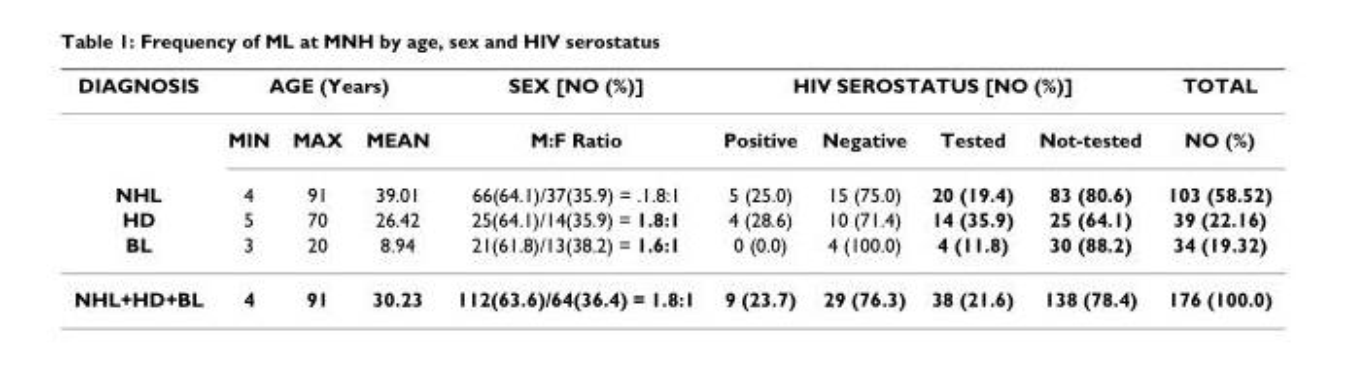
<table><thead><tr><td rowspan="2">DIAGNOSIS</td><td colspan="3">AGE (Years)</td><td rowspan="2">SEX [NO (%)] M:F Ratio</td><td colspan="4">HIV SEROSTATUS [NO (%)]</td><td rowspan="2">TOTAL NO (%)</td></tr><tr><td>MIN</td><td>MAX</td><td>MEAN</td><td>Positive</td><td>Negative</td><td>Tested</td><td>Not-tested</td></tr></thead><tbody><tr><td>NHL</td><td>4</td><td>91</td><td>39.01</td><td>66(64.1)/37(35.9) = .1.8:1</td><td>5 (25.0)</td><td>15 (75.0)</td><td>20 (19.4)</td><td>83 (80.6)</td><td>103 (58.52)</td></tr><tr><td>HD</td><td>5</td><td>70</td><td>26.42</td><td>25(64.1)/14(35.9) = 1.8:1</td><td>4 (28.6)</td><td>10 (71.4)</td><td>14 (35.9)</td><td>25 (64.1)</td><td>39 (22.16)</td></tr><tr><td>BL</td><td>3</td><td>20</td><td>8.94</td><td>21(61.8)/13(38.2) = 1.6:1</td><td>0 (0.0)</td><td>4 (100.0)</td><td>4 (11.8)</td><td>30 (88.2)</td><td>34 (19.32)</td></tr><tr><td>NHL+HD+BL</td><td>4</td><td>91</td><td>30.23</td><td>112(63.6)/64(36.4) = 1.8:1</td><td>9 (23.7)</td><td>29 (76.3)</td><td>38 (21.6)</td><td>138 (78.4)</td><td>176 (100.0)</td></tr></tbody></table>